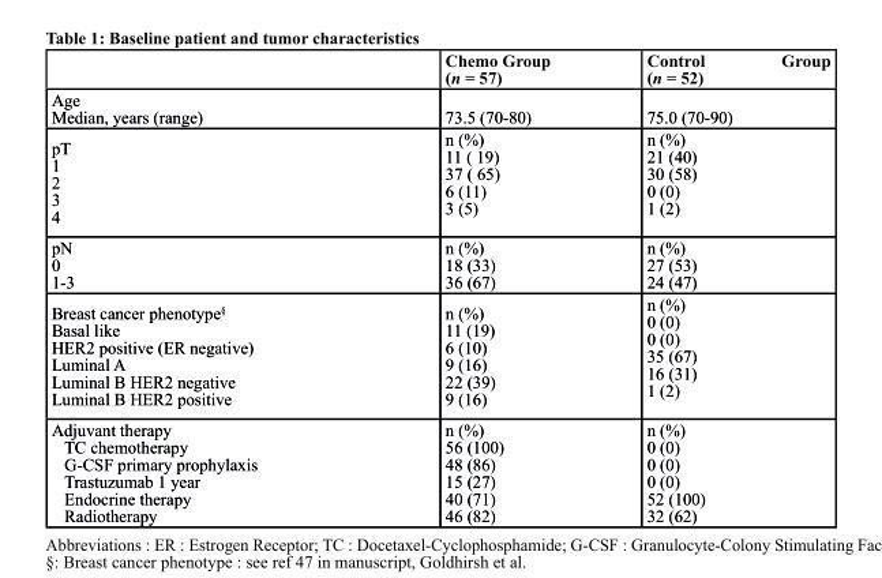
<table><thead><tr><td></td><td>chemo Group (n = 57)</td><td>control Group (n = 52)</td></tr></thead><tbody><tr><td>Age Median, years (range)</td><td>73.5 (70-80)</td><td>75.0 (70-90)</td></tr><tr><td>pT 1 2 3 4</td><td>n (%) 11 ( 19) 37 ( 65) 6 (11) 3 (5)</td><td>n (%) 21 (40) 30 (58) 0 (0) 1 (2)</td></tr><tr><td>pN 0 1-3</td><td>n (%) 18 (33) 36 (67)</td><td>n (%) 27 (53) 24 (47)</td></tr><tr><td>Breast cancer phenotype<sup>§</sup> Basal like HER2 positive (ER negative) Luminal A Luminal B HER2 negative Luminal B HER2 positive</td><td>n (%) 11 (19) 6 (10) 9 (16) 22 (39) 9 (16)</td><td>n (%) 0 (0) 0 (0) 35 (67) 16 (31) 1 (2)</td></tr><tr><td>Adjuvant therapy TC chemotherapy G-CSF primary prophylaxis Trastuzumab 1 year Endocrine therapy Radiotherapy</td><td>n (%) 56 (100) 48 (86) 15 (27) 40 (71) 46 (82)</td><td>n (%) 0 (0) 0 (0) 0 (0) 52 (100) 32 (62)</td></tr></tbody></table>